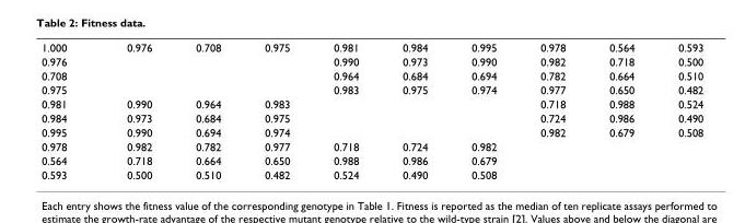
<table><tbody><tr><td>1.000</td><td>0.976</td><td>0.708</td><td>0.975</td><td>0.981</td><td>0.984</td><td>0.995</td><td>0.978</td><td>0.564</td><td>0.593</td></tr><tr><td>0.976</td><td></td><td></td><td></td><td>0.990</td><td>0.973</td><td>0.990</td><td>0.982</td><td>0.718</td><td>0.500</td></tr><tr><td>0.708</td><td></td><td></td><td></td><td>0.964</td><td>0.684</td><td>0.694</td><td>0.782</td><td>0.664</td><td>0.510</td></tr><tr><td>0.975</td><td></td><td></td><td></td><td>0.983</td><td>0.975</td><td>0.974</td><td>0.977</td><td>0.650</td><td>0.482</td></tr><tr><td>0.981</td><td>0.990</td><td>0.964</td><td>0.983</td><td></td><td></td><td></td><td>0.718</td><td>0.988</td><td>0.524</td></tr><tr><td>0.984</td><td>0.973</td><td>0.684</td><td>0.975</td><td></td><td></td><td></td><td>0.724</td><td>0.986</td><td>0.490</td></tr><tr><td>0.995</td><td>0.990</td><td>0.694</td><td>0.974</td><td></td><td></td><td></td><td>0.982</td><td>0.679</td><td>0.508</td></tr><tr><td>0.978</td><td>0.982</td><td>0.782</td><td>0.977</td><td>0.718</td><td>0.724</td><td>0.982</td><td></td><td></td><td></td></tr><tr><td>0.564</td><td>0.718</td><td>0.664</td><td>0.650</td><td>0.988</td><td>0.986</td><td>0.679</td><td></td><td></td><td></td></tr><tr><td>0.593</td><td>0.500</td><td>0.510</td><td>0.482</td><td>0.524</td><td>0.490</td><td>0.508</td><td></td><td></td><td></td></tr></tbody></table>